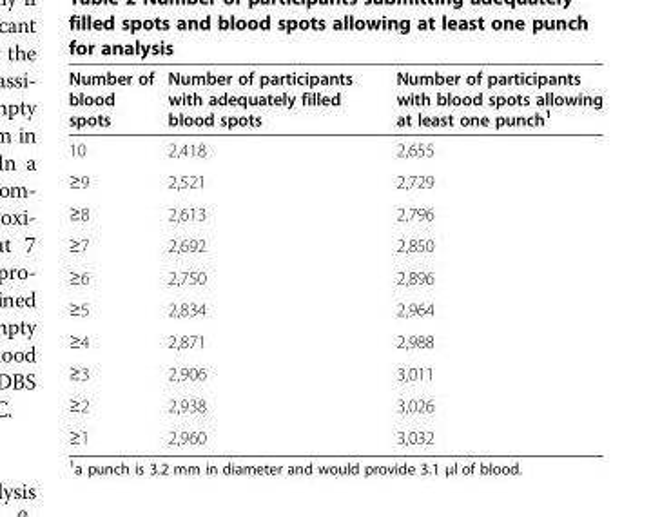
<table><thead><tr><td>Number of blood spots</td><td>Number of participants with adequately filled blood spots</td><td>Number of participants with blood spots allowing at least one punch<sup>1</sup></td></tr></thead><tbody><tr><td>10</td><td>2,418</td><td>2,655</td></tr><tr><td>≥9</td><td>2,521</td><td>2,729</td></tr><tr><td>≥8</td><td>2,613</td><td>2,796</td></tr><tr><td>≥7</td><td>2,692</td><td>2,850</td></tr><tr><td>≥6</td><td>2,750</td><td>2,896</td></tr><tr><td>≥5</td><td>2,834</td><td>2,964</td></tr><tr><td>≥4</td><td>2,871</td><td>2,988</td></tr><tr><td>≥3</td><td>2,906</td><td>3,011</td></tr><tr><td>≥2</td><td>2,938</td><td>3,026</td></tr><tr><td>≥1</td><td>2,960</td><td>3,032</td></tr></tbody></table>